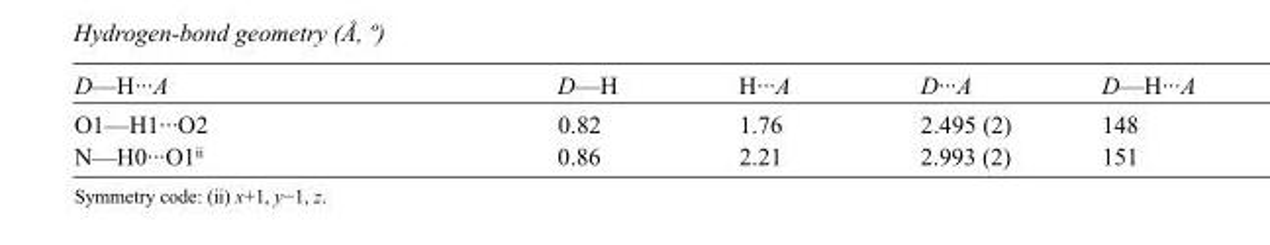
<table><tbody><tr><td>D—H···A</td><td>D—H</td><td>H···A</td><td>D···A</td><td>D—H···A</td></tr><tr><td>O1—H1···O2</td><td>0.82</td><td>1.76</td><td>2.495 (2)</td><td>148</td></tr><tr><td>N—H0···O1<sup>ii</sup></td><td>0.86</td><td>2.21</td><td>2.993 (2)</td><td>151</td></tr></tbody></table>